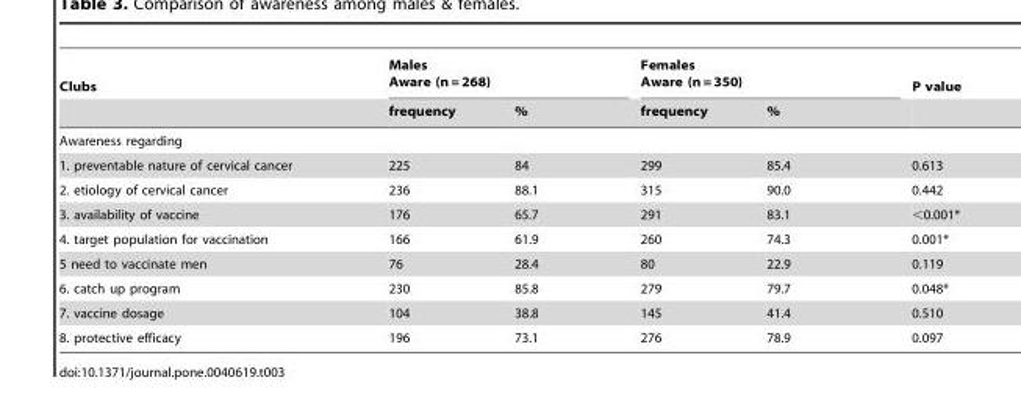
<table><thead><tr><td rowspan="2">Clubs</td><td colspan="2">Males Aware (n = 268)</td><td colspan="2">Females Aware (n = 350)</td><td rowspan="2">P value</td></tr><tr><td>frequency</td><td>%</td><td>frequency</td><td>%</td></tr></thead><tbody><tr><td colspan="6">Awareness regarding</td></tr><tr><td>1. preventable nature of cervical cancer</td><td>225</td><td>84</td><td>299</td><td>85.4</td><td>0.613</td></tr><tr><td>2. etiology of cervical cancer</td><td>236</td><td>88.1</td><td>315</td><td>90.0</td><td>0.442</td></tr><tr><td>3. availability of vaccine</td><td>176</td><td>65.7</td><td>291</td><td>83.1</td><td>&lt;0.001*</td></tr><tr><td>4. target population for vaccination</td><td>166</td><td>61.9</td><td>260</td><td>74.3</td><td>0.001*</td></tr><tr><td>5 need to vaccinate men</td><td>76</td><td>28.4</td><td>80</td><td>22.9</td><td>0.119</td></tr><tr><td>6. catch up program</td><td>230</td><td>85.8</td><td>279</td><td>79.7</td><td>0.048*</td></tr><tr><td>7. vaccine dosage</td><td>104</td><td>38.8</td><td>145</td><td>41.4</td><td>0.510</td></tr><tr><td>8. protective efficacy</td><td>196</td><td>73.1</td><td>276</td><td>78.9</td><td>0.097</td></tr></tbody></table>